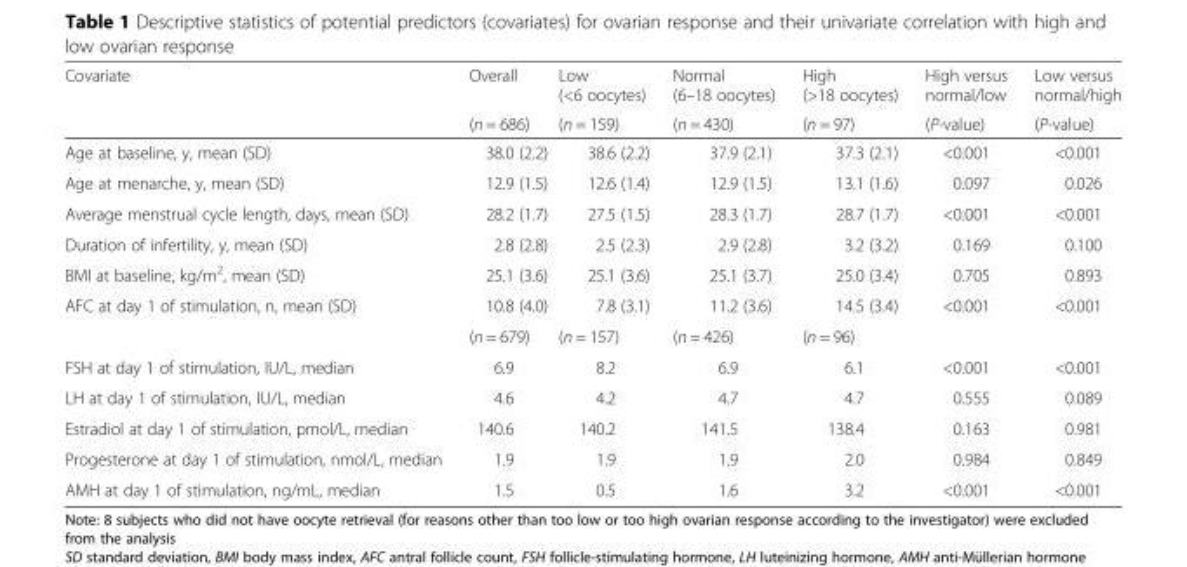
<table><thead><tr><td rowspan="2">Covariate</td><td rowspan="2">Overall (n = 686)</td><td rowspan="2">Low (&lt;6 oocytes) (n = 159)</td><td rowspan="2">Normal (6–18 oocytes) (n = 430)</td><td rowspan="2">High (&gt;18 oocytes) (n = 97)</td><td rowspan="2">High versus normal/low (P-value)</td><td rowspan="2">Low versus normal/high (P-value)</td></tr><tr></tr></thead><tbody><tr><td>Age at baseline, y, mean (SD)</td><td>38.0 (2.2)</td><td>38.6 (2.2)</td><td>37.9 (2.1)</td><td>37.3 (2.1)</td><td>&lt;0.001</td><td>&lt;0.001</td></tr><tr><td>Age at menarche, y, mean (SD)</td><td>12.9 (1.5)</td><td>12.6 (1.4)</td><td>12.9 (1.5)</td><td>13.1 (1.6)</td><td>0.097</td><td>0.026</td></tr><tr><td>Average menstrual cycle length, days, mean (SD)</td><td>28.2 (1.7)</td><td>27.5 (1.5)</td><td>28.3 (1.7)</td><td>28.7 (1.7)</td><td>&lt;0.001</td><td>&lt;0.001</td></tr><tr><td>Duration of infertility, y, mean (SD)</td><td>2.8 (2.8)</td><td>2.5 (2.3)</td><td>2.9 (2.8)</td><td>3.2 (3.2)</td><td>0.169</td><td>0.100</td></tr><tr><td>BMI at baseline, kg/m<sup>2</sup>, mean (SD)</td><td>25.1 (3.6)</td><td>25.1 (3.6)</td><td>25.1 (3.7)</td><td>25.0 (3.4)</td><td>0.705</td><td>0.893</td></tr><tr><td rowspan="2">AFC at day 1 of stimulation, n, mean (SD)</td><td>10.8 (4.0)</td><td>7.8 (3.1)</td><td>11.2 (3.6)</td><td>14.5 (3.4)</td><td>&lt;0.001</td><td>&lt;0.001</td></tr><tr><td>(n = 679)</td><td>(n = 157)</td><td>(n = 426)</td><td>(n = 96)</td><td></td><td></td></tr><tr><td>FSH at day 1 of stimulation, IU/L, median</td><td>6.9</td><td>8.2</td><td>6.9</td><td>6.1</td><td>&lt;0.001</td><td>&lt;0.001</td></tr><tr><td>LH at day 1 of stimulation, IU/L, median</td><td>4.6</td><td>4.2</td><td>4.7</td><td>4.7</td><td>0.555</td><td>0.089</td></tr><tr><td>Estradiol at day 1 of stimulation, pmol/L, median</td><td>140.6</td><td>140.2</td><td>141.5</td><td>138.4</td><td>0.163</td><td>0.981</td></tr><tr><td>Progesterone at day 1 of stimulation, nmol/L, median</td><td>1.9</td><td>1.9</td><td>1.9</td><td>2.0</td><td>0.984</td><td>0.849</td></tr><tr><td>AMH at day 1 of stimulation, ng/mL, median</td><td>1.5</td><td>0.5</td><td>1.6</td><td>3.2</td><td>&lt;0.001</td><td>&lt;0.001</td></tr></tbody></table>